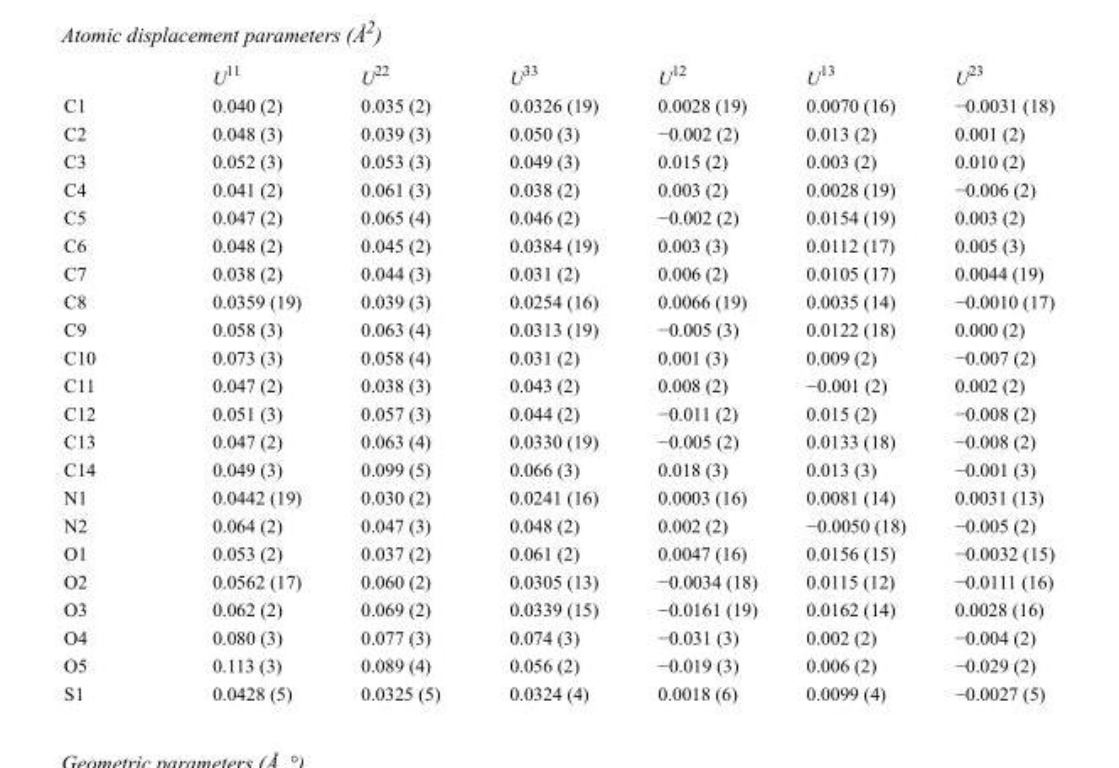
<table><thead><tr><td></td><td>U<sup>11</sup></td><td>U<sup>22</sup></td><td>U<sup>33</sup></td><td>U<sup>12</sup></td><td>U<sup>13</sup></td><td>U<sup>23</sup></td></tr></thead><tbody><tr><td>C1</td><td>0.040 (2)</td><td>0.035 (2)</td><td>0.0326 (19)</td><td>0.0028 (19)</td><td>0.0070 (16)</td><td>−0.0031 (18)</td></tr><tr><td>C2</td><td>0.048 (3)</td><td>0.039 (3)</td><td>0.050 (3)</td><td>−0.002 (2)</td><td>0.013 (2)</td><td>0.001 (2)</td></tr><tr><td>C3</td><td>0.052 (3)</td><td>0.053 (3)</td><td>0.049 (3)</td><td>0.015 (2)</td><td>0.003 (2)</td><td>0.010 (2)</td></tr><tr><td>C4</td><td>0.041 (2)</td><td>0.061 (3)</td><td>0.038 (2)</td><td>0.003 (2)</td><td>0.0028 (19)</td><td>−0.006 (2)</td></tr><tr><td>C5</td><td>0.047 (2)</td><td>0.065 (4)</td><td>0.046 (2)</td><td>−0.002 (2)</td><td>0.0154 (19)</td><td>0.003 (2)</td></tr><tr><td>C6</td><td>0.048 (2)</td><td>0.045 (2)</td><td>0.0384 (19)</td><td>0.003 (3)</td><td>0.0112 (17)</td><td>0.005 (3)</td></tr><tr><td>C7</td><td>0.038 (2)</td><td>0.044 (3)</td><td>0.031 (2)</td><td>0.006 (2)</td><td>0.0105 (17)</td><td>0.0044 (19)</td></tr><tr><td>C8</td><td>0.0359 (19)</td><td>0.039 (3)</td><td>0.0254 (16)</td><td>0.0066 (19)</td><td>0.0035 (14)</td><td>−0.0010 (17)</td></tr><tr><td>C9</td><td>0.058 (3)</td><td>0.063 (4)</td><td>0.0313 (19)</td><td>−0.005 (3)</td><td>0.0122 (18)</td><td>0.000 (2)</td></tr><tr><td>C10</td><td>0.073 (3)</td><td>0.058 (4)</td><td>0.031 (2)</td><td>0.001 (3)</td><td>0.009 (2)</td><td>−0.007 (2)</td></tr><tr><td>C11</td><td>0.047 (2)</td><td>0.038 (3)</td><td>0.043 (2)</td><td>0.008 (2)</td><td>−0.001 (2)</td><td>0.002 (2)</td></tr><tr><td>C12</td><td>0.051 (3)</td><td>0.057 (3)</td><td>0.044 (2)</td><td>−0.011 (2)</td><td>0.015 (2)</td><td>−0.008 (2)</td></tr><tr><td>C13</td><td>0.047 (2)</td><td>0.063 (4)</td><td>0.0330 (19)</td><td>−0.005 (2)</td><td>0.0133 (18)</td><td>−0.008 (2)</td></tr><tr><td>C14</td><td>0.049 (3)</td><td>0.099 (5)</td><td>0.066 (3)</td><td>0.018 (3)</td><td>0.013 (3)</td><td>−0.001 (3)</td></tr><tr><td>N1</td><td>0.0442 (19)</td><td>0.030 (2)</td><td>0.0241 (16)</td><td>0.0003 (16)</td><td>0.0081 (14)</td><td>0.0031 (13)</td></tr><tr><td>N2</td><td>0.064 (2)</td><td>0.047 (3)</td><td>0.048 (2)</td><td>0.002 (2)</td><td>−0.0050 (18)</td><td>−0.005 (2)</td></tr><tr><td>O1</td><td>0.053 (2)</td><td>0.037 (2)</td><td>0.061 (2)</td><td>0.0047 (16)</td><td>0.0156 (15)</td><td>−0.0032 (15)</td></tr><tr><td>O2</td><td>0.0562 (17)</td><td>0.060 (2)</td><td>0.0305 (13)</td><td>−0.0034 (18)</td><td>0.0115 (12)</td><td>−0.0111 (16)</td></tr><tr><td>O3</td><td>0.062 (2)</td><td>0.069 (2)</td><td>0.0339 (15)</td><td>−0.0161 (19)</td><td>0.0162 (14)</td><td>0.0028 (16)</td></tr><tr><td>O4</td><td>0.080 (3)</td><td>0.077 (3)</td><td>0.074 (3)</td><td>−0.031 (3)</td><td>0.002 (2)</td><td>−0.004 (2)</td></tr><tr><td>O5</td><td>0.113 (3)</td><td>0.089 (4)</td><td>0.056 (2)</td><td>−0.019 (3)</td><td>0.006 (2)</td><td>−0.029 (2)</td></tr><tr><td>S1</td><td>0.0428 (5)</td><td>0.0325 (5)</td><td>0.0324 (4)</td><td>0.0018 (6)</td><td>0.0099 (4)</td><td>−0.0027 (5)</td></tr></tbody></table>